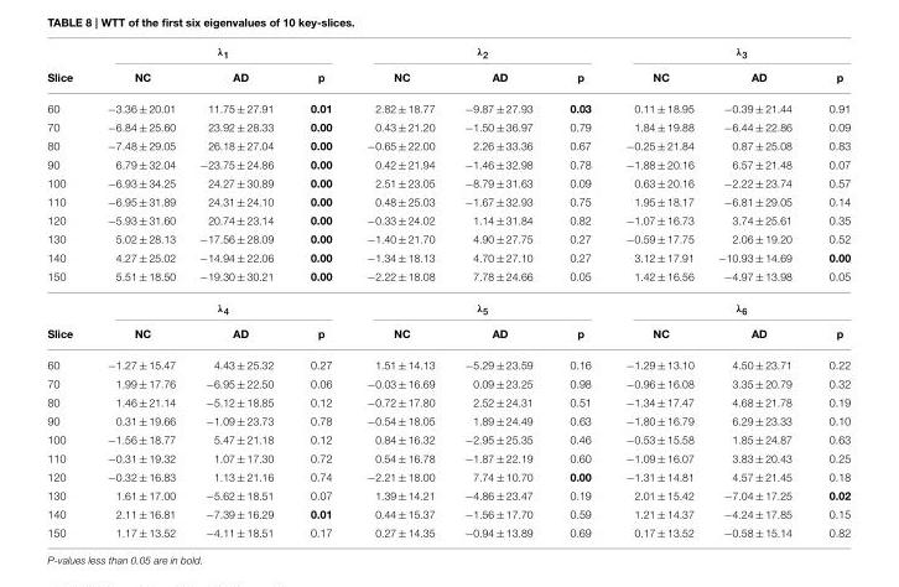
<table><thead><tr><td rowspan="2">Slice</td><td colspan="3">λ<sub>1</sub></td><td colspan="3">λ<sub>2</sub></td><td colspan="3">λ<sub>3</sub></td></tr><tr><td>NC</td><td>AD</td><td>p</td><td>NC</td><td>AD</td><td>p</td><td>NC</td><td>AD</td><td>p</td></tr></thead><tbody><tr><td>60</td><td>−3.36 ± 20.01</td><td>11.75 ± 27.91</td><td>0.01</td><td>2.82 ± 18.77</td><td>−9.87 ± 27.93</td><td>0.03</td><td>0.11 ± 18.95</td><td>−0.39 ± 21.44</td><td>0.91</td></tr><tr><td>70</td><td>−6.84 ± 25.60</td><td>23.92 ± 28.33</td><td>0.00</td><td>0.43 ± 21.20</td><td>−1.50 ± 36.97</td><td>0.79</td><td>1.84 ± 19.88</td><td>−6.44 ± 22.86</td><td>0.09</td></tr><tr><td>80</td><td>−7.48 ± 29.05</td><td>26.18 ± 27.04</td><td>0.00</td><td>−0.65 ± 22.00</td><td>2.26 ± 33.36</td><td>0.67</td><td>−0.25 ± 21.84</td><td>0.87 ± 25.08</td><td>0.83</td></tr><tr><td>90</td><td>6.79 ± 32.04</td><td>−23.75 ± 24.86</td><td>0.00</td><td>0.42 ± 21.94</td><td>−1.46 ± 32.98</td><td>0.78</td><td>−1.88 ± 20.16</td><td>6.57 ± 21.48</td><td>0.07</td></tr><tr><td>100</td><td>−6.93 ± 34.25</td><td>24.27 ± 30.89</td><td>0.00</td><td>2.51 ± 23.05</td><td>−8.79 ± 31.63</td><td>0.09</td><td>0.63 ± 20.16</td><td>−2.22 ± 23.74</td><td>0.57</td></tr><tr><td>110</td><td>−6.95 ± 31.89</td><td>24.31 ± 24.10</td><td>0.00</td><td>0.48 ± 25.03</td><td>−1.67 ± 32.93</td><td>0.75</td><td>1.95 ± 18.17</td><td>−6.81 ± 29.05</td><td>0.14</td></tr><tr><td>120</td><td>−5.93 ± 31.60</td><td>20.74 ± 23.14</td><td>0.00</td><td>−0.33 ± 24.02</td><td>1.14 ± 31.84</td><td>0.82</td><td>−1.07 ± 16.73</td><td>3.74 ± 25.61</td><td>0.35</td></tr><tr><td>130</td><td>5.02 ± 28.13</td><td>−17.56 ± 28.09</td><td>0.00</td><td>−1.40 ± 21.70</td><td>4.90 ± 27.75</td><td>0.27</td><td>−0.59 ± 17.75</td><td>2.06 ± 19.20</td><td>0.52</td></tr><tr><td>140</td><td>4.27 ± 25.02</td><td>−14.94 ± 22.06</td><td>0.00</td><td>−1.34 ± 18.13</td><td>4.70 ± 27.10</td><td>0.27</td><td>3.12 ± 17.91</td><td>−10.93 ± 14.69</td><td>0.00</td></tr><tr><td rowspan="2">150</td><td>5.51 ± 18.50</td><td>−19.30 ± 30.21</td><td>0.00</td><td>−2.22 ± 18.08</td><td>7.78 ± 24.66</td><td>0.05</td><td>1.42 ± 16.56</td><td>−4.97 ± 13.98</td><td>0.05</td></tr><tr><td colspan="3">λ<sub>4</sub></td><td colspan="3">λ<sub>5</sub></td><td colspan="3">λ<sub>6</sub></td></tr><tr><td>Slice</td><td>NC</td><td>AD</td><td>p</td><td>NC</td><td>AD</td><td>p</td><td>NC</td><td>AD</td><td>p</td></tr><tr><td>60</td><td>−1.27 ± 15.47</td><td>4.43 ± 25.32</td><td>0.27</td><td>1.51 ± 14.13</td><td>−5.29 ± 23.59</td><td>0.16</td><td>−1.29 ± 13.10</td><td>4.50 ± 23.71</td><td>0.22</td></tr><tr><td>70</td><td>1.99 ± 17.76</td><td>−6.95 ± 22.50</td><td>0.06</td><td>−0.03 ± 16.69</td><td>0.09 ± 23.25</td><td>0.98</td><td>−0.96 ± 16.08</td><td>3.35 ± 20.79</td><td>0.32</td></tr><tr><td>80</td><td>1.46 ± 21.14</td><td>−5.12 ± 18.85</td><td>0.12</td><td>−0.72 ± 17.80</td><td>2.52 ± 24.31</td><td>0.51</td><td>−1.34 ± 17.47</td><td>4.68 ± 21.78</td><td>0.19</td></tr><tr><td>90</td><td>0.31 ± 19.66</td><td>−1.09 ± 23.73</td><td>0.78</td><td>−0.54 ± 18.05</td><td>1.89 ± 24.49</td><td>0.63</td><td>−1.80 ± 16.79</td><td>6.29 ± 23.33</td><td>0.10</td></tr><tr><td>100</td><td>−1.56 ± 18.77</td><td>5.47 ± 21.18</td><td>0.12</td><td>0.84 ± 16.32</td><td>−2.95 ± 25.35</td><td>0.46</td><td>−0.53 ± 15.58</td><td>1.85 ± 24.87</td><td>0.63</td></tr><tr><td>110</td><td>−0.31 ± 19.32</td><td>1.07 ± 17.30</td><td>0.72</td><td>0.54 ± 16.78</td><td>−1.87 ± 22.19</td><td>0.60</td><td>−1.09 ± 16.07</td><td>3.83 ± 20.43</td><td>0.25</td></tr><tr><td>120</td><td>−0.32 ± 16.83</td><td>1.13 ± 21.16</td><td>0.74</td><td>−2.21 ± 18.00</td><td>7.74 ± 10.70</td><td>0.00</td><td>−1.31 ± 14.81</td><td>4.57 ± 21.45</td><td>0.18</td></tr><tr><td>130</td><td>1.61 ± 17.00</td><td>−5.62 ± 18.51</td><td>0.07</td><td>1.39 ± 14.21</td><td>−4.86 ± 23.47</td><td>0.19</td><td>2.01 ± 15.42</td><td>−7.04 ± 17.25</td><td>0.02</td></tr><tr><td>140</td><td>2.11 ± 16.81</td><td>−7.39 ± 16.29</td><td>0.01</td><td>0.44 ± 15.37</td><td>−1.56 ± 17.70</td><td>0.59</td><td>1.21 ± 14.37</td><td>−4.24 ± 17.85</td><td>0.15</td></tr><tr><td>150</td><td>1.17 ± 13.52</td><td>−4.11 ± 18.51</td><td>0.17</td><td>0.27 ± 14.35</td><td>−0.94 ± 13.89</td><td>0.69</td><td>0.17 ± 13.52</td><td>−0.58 ± 15.14</td><td>0.82</td></tr></tbody></table>